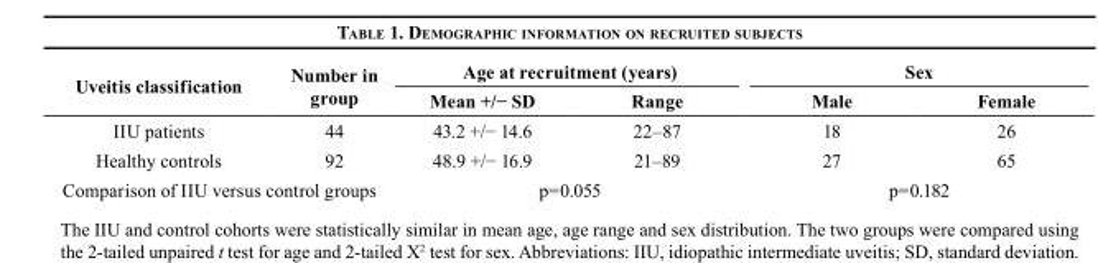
<table><thead><tr><td rowspan="2">Uveitis classification</td><td rowspan="2">Number in group</td><td colspan="2">Age at recruitment (years)</td><td colspan="2">Sex</td></tr><tr><td>Mean +/− SD</td><td>Range</td><td>Male</td><td>Female</td></tr></thead><tbody><tr><td>IIU patients</td><td>44</td><td>43.2 +/− 14.6</td><td>22–87</td><td>18</td><td>26</td></tr><tr><td>Healthy controls</td><td>92</td><td>48.9 +/− 16.9</td><td>21–89</td><td>27</td><td>65</td></tr><tr><td colspan="2">Comparison of IIU versus control groups</td><td colspan="2">p=0.055</td><td colspan="2">p=0.182</td></tr></tbody></table>